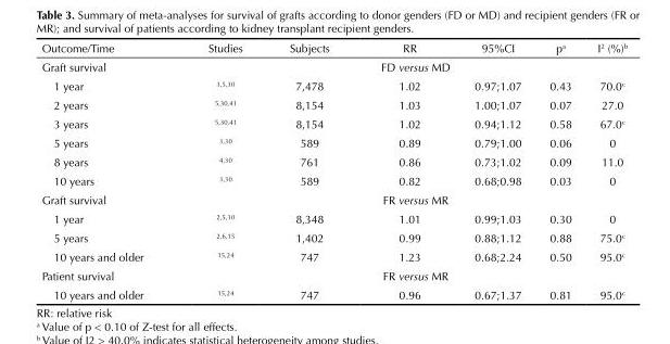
<table><thead><tr><td>Outcome/Time</td><td>Studies</td><td>Subjects</td><td>RR</td><td>95%CI</td><td>p<sup>a</sup></td><td>I<sup>2</sup> (%)<sup>b</sup></td></tr></thead><tbody><tr><td>Graft survival</td><td colspan="6">FD versus MD</td></tr><tr><td>1 year</td><td><sup>3,5,30</sup></td><td>7,478</td><td>1.02</td><td>0.97;1.07</td><td>0.43</td><td>70.0<sup>c</sup></td></tr><tr><td>2 years</td><td><sup>5,30,41</sup></td><td>8,154</td><td>1.03</td><td>1.00;1.07</td><td>0.07</td><td>27.0</td></tr><tr><td>3 years</td><td><sup>5,30,41</sup></td><td>8,154</td><td>1.02</td><td>0.94;1.12</td><td>0.58</td><td>67.0<sup>c</sup></td></tr><tr><td>5 years</td><td><sup>3,30</sup></td><td>589</td><td>0.89</td><td>0.79;1.00</td><td>0.06</td><td>0</td></tr><tr><td>8 years</td><td><sup>4,30</sup></td><td>761</td><td>0.86</td><td>0.73;1.02</td><td>0.09</td><td>11.0</td></tr><tr><td>10 years</td><td><sup>3,30</sup></td><td>589</td><td>0.82</td><td>0.68;0.98</td><td>0.03</td><td>0</td></tr><tr><td>Graft survival</td><td colspan="6">FR versus MR</td></tr><tr><td>1 year</td><td><sup>2,5,10</sup></td><td>8,348</td><td>1.01</td><td>0.99;1.03</td><td>0.30</td><td>0</td></tr><tr><td>5 years</td><td><sup>2,6,15</sup></td><td>1,402</td><td>0.99</td><td>0.88;1.12</td><td>0.88</td><td>75.0<sup>c</sup></td></tr><tr><td>10 years and older</td><td><sup>15,24</sup></td><td>747</td><td>1.23</td><td>0.68;2.24</td><td>0.50</td><td>95.0<sup>c</sup></td></tr><tr><td>Patient survival</td><td colspan="6">FR versus MR</td></tr><tr><td>10 years and older</td><td><sup>15,24</sup></td><td>747</td><td>0.96</td><td>0.67;1.37</td><td>0.81</td><td>95.0<sup>c</sup></td></tr></tbody></table>